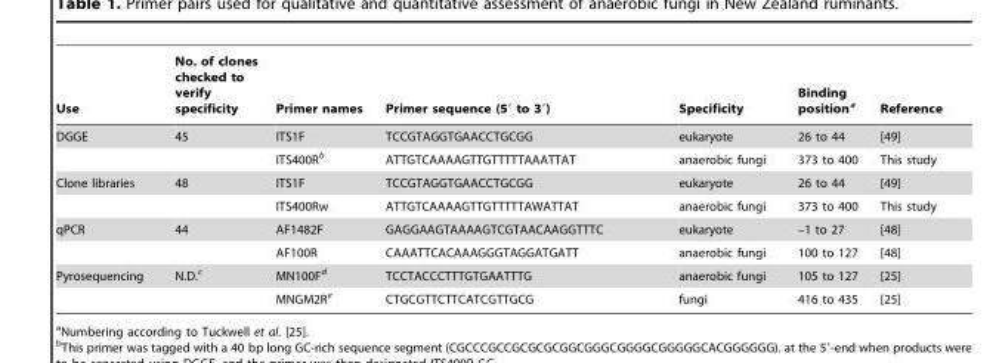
<table><thead><tr><td>Use</td><td>No. of clones checked to verify specificity</td><td>Primer names</td><td>Primer sequence (5′ to 3′)</td><td>Specificity</td><td>Binding position<sup>a</sup></td><td>Reference</td></tr></thead><tbody><tr><td rowspan="2">DGGE</td><td>45</td><td>ITS1F</td><td>TCCGTAGGTGAACCTGCGG</td><td>eukaryote</td><td>26 to 44</td><td>[49]</td></tr><tr><td></td><td>ITS400R<sup>b</sup></td><td>ATTGTCAAAAGTTGTTTTTAAATTAT</td><td>anaerobic fungi</td><td>373 to 400</td><td>This study</td></tr><tr><td rowspan="2">Clone libraries</td><td>48</td><td>ITS1F</td><td>TCCGTAGGTGAACCTGCGG</td><td>eukaryote</td><td>26 to 44</td><td>[49]</td></tr><tr><td></td><td>ITS400Rw</td><td>ATTGTCAAAAGTTGTTTTTAWATTAT</td><td>anaerobic fungi</td><td>373 to 400</td><td>This study</td></tr><tr><td rowspan="2">qPCR</td><td>44</td><td>AF1482F</td><td>GAGGAAGTAAAAGTCGTAACAAGGTTTC</td><td>eukaryote</td><td>–1 to 27</td><td>[48]</td></tr><tr><td></td><td>AF100R</td><td>CAAATTCACAAAGGGTAGGATGATT</td><td>anaerobic fungi</td><td>100 to 127</td><td>[48]</td></tr><tr><td rowspan="2">Pyrosequencing</td><td>N.D.<sup>c</sup></td><td>MN100F<sup>d</sup></td><td>TCCTACCCTTTGTGAATTTG</td><td>anaerobic fungi</td><td>105 to 127</td><td>[25]</td></tr><tr><td></td><td>MNGM2R<sup>e</sup></td><td>CTGCGTTCTTCATCGTTGCG</td><td>fungi</td><td>416 to 435</td><td>[25]</td></tr></tbody></table>